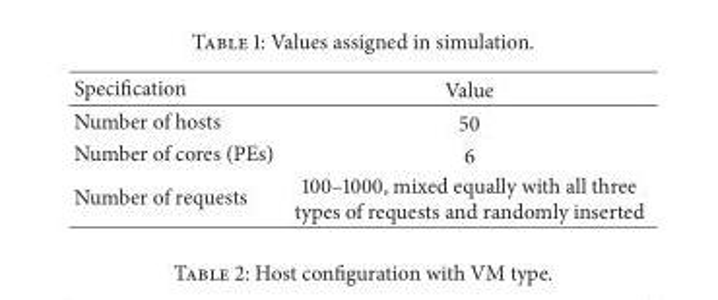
<table><thead><tr><td>Specification</td><td>Value</td></tr></thead><tbody><tr><td>Number of hosts</td><td>50</td></tr><tr><td>Number of cores (PEs)</td><td>6</td></tr><tr><td>Number of requests</td><td>100–1000, mixed equally with all three types of requests and randomly inserted</td></tr></tbody></table>